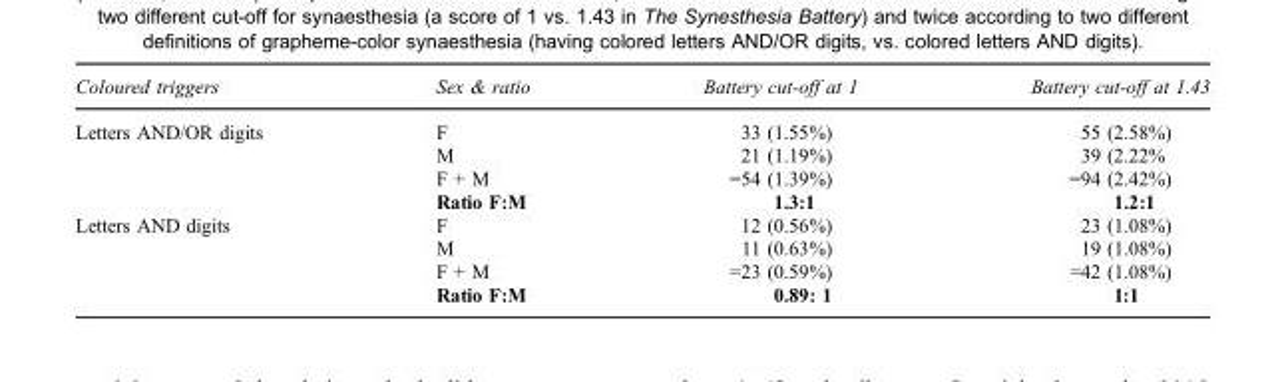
<table><thead><tr><td>Coloured triggers</td><td>Sex &amp; ratio</td><td>Battery cut-off at 1</td><td>Battery cut-off at 1.43</td></tr></thead><tbody><tr><td rowspan="4">Letters AND/OR digits</td><td>F</td><td>33 (1.55%)</td><td>55 (2.58%)</td></tr><tr><td>M</td><td>21 (1.19%)</td><td>39 (2.22%</td></tr><tr><td>F + M</td><td>=54 (1.39%)</td><td>=94 (2.42%)</td></tr><tr><td>Ratio F:M</td><td>1.3:1</td><td>1.2:1</td></tr><tr><td rowspan="4">Letters AND digits</td><td>F</td><td>12 (0.56%)</td><td>23 (1.08%)</td></tr><tr><td>M</td><td>11 (0.63%)</td><td>19 (1.08%)</td></tr><tr><td>F + M</td><td>=23 (0.59%)</td><td>=42 (1.08%)</td></tr><tr><td>Ratio F:M</td><td>0.89: 1</td><td>1:1</td></tr></tbody></table>